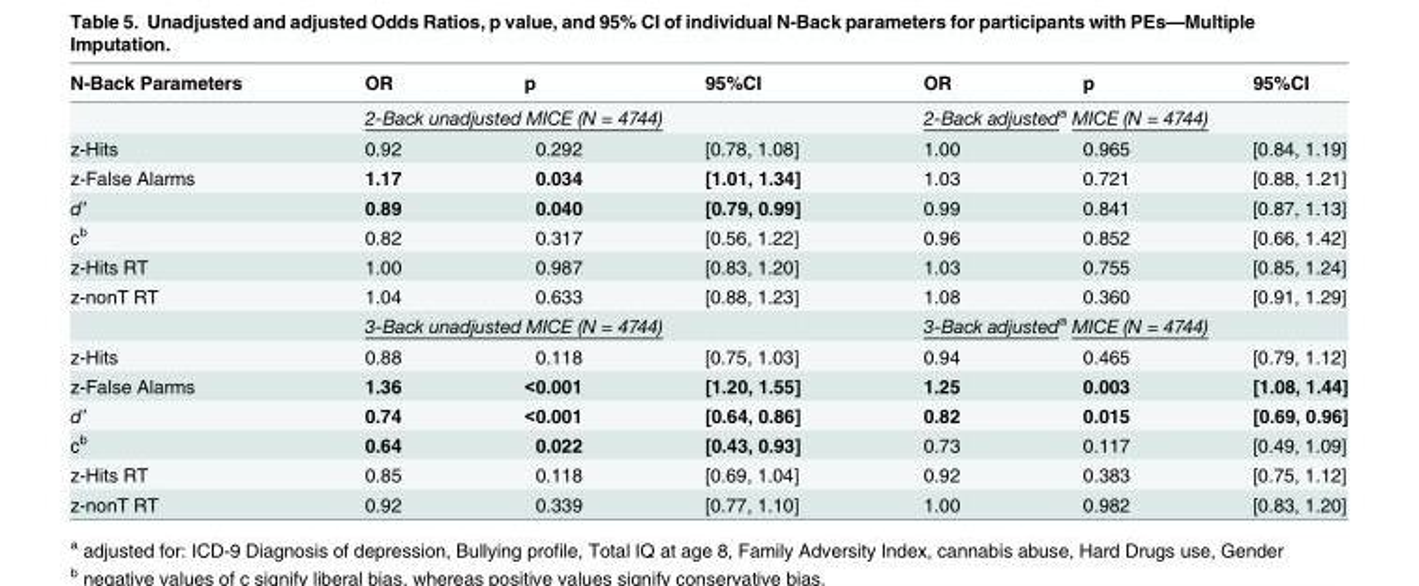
<table><thead><tr><td>N-Back Parameters</td><td>OR</td><td>p</td><td>95%CI</td><td>OR</td><td>p</td><td>95%CI</td></tr></thead><tbody><tr><td></td><td colspan="3">2-Back unadjusted MICE (N = 4744)</td><td colspan="3">2-Back adjusted<sup>a</sup> MICE (N = 4744)</td></tr><tr><td>z-Hits</td><td>0.92</td><td>0.292</td><td>[0.78, 1.08]</td><td>1.00</td><td>0.965</td><td>[0.84, 1.19]</td></tr><tr><td>z-False Alarms</td><td>1.17</td><td>0.034</td><td>[1.01, 1.34]</td><td>1.03</td><td>0.721</td><td>[0.88, 1.21]</td></tr><tr><td>d’</td><td>0.89</td><td>0.040</td><td>[0.79, 0.99]</td><td>0.99</td><td>0.841</td><td>[0.87, 1.13]</td></tr><tr><td>c<sup>b</sup></td><td>0.82</td><td>0.317</td><td>[0.56, 1.22]</td><td>0.96</td><td>0.852</td><td>[0.66, 1.42]</td></tr><tr><td>z-Hits RT</td><td>1.00</td><td>0.987</td><td>[0.83, 1.20]</td><td>1.03</td><td>0.755</td><td>[0.85, 1.24]</td></tr><tr><td rowspan="2">z-nonT RT</td><td>1.04</td><td>0.633</td><td>[0.88, 1.23]</td><td>1.08</td><td>0.360</td><td>[0.91, 1.29]</td></tr><tr><td colspan="3">3-Back unadjusted MICE (N = 4744)</td><td colspan="3">3-Back adjusted<sup>a</sup> MICE (N = 4744)</td></tr><tr><td>z-Hits</td><td>0.88</td><td>0.118</td><td>[0.75, 1.03]</td><td>0.94</td><td>0.465</td><td>[0.79, 1.12]</td></tr><tr><td>z-False Alarms</td><td>1.36</td><td>&lt;0.001</td><td>[1.20, 1.55]</td><td>1.25</td><td>0.003</td><td>[1.08, 1.44]</td></tr><tr><td>d’</td><td>0.74</td><td>&lt;0.001</td><td>[0.64, 0.86]</td><td>0.82</td><td>0.015</td><td>[0.69, 0.96]</td></tr><tr><td>c<sup>b</sup></td><td>0.64</td><td>0.022</td><td>[0.43, 0.93]</td><td>0.73</td><td>0.117</td><td>[0.49, 1.09]</td></tr><tr><td>z-Hits RT</td><td>0.85</td><td>0.118</td><td>[0.69, 1.04]</td><td>0.92</td><td>0.383</td><td>[0.75, 1.12]</td></tr><tr><td>z-nonT RT</td><td>0.92</td><td>0.339</td><td>[0.77, 1.10]</td><td>1.00</td><td>0.982</td><td>[0.83, 1.20]</td></tr></tbody></table>